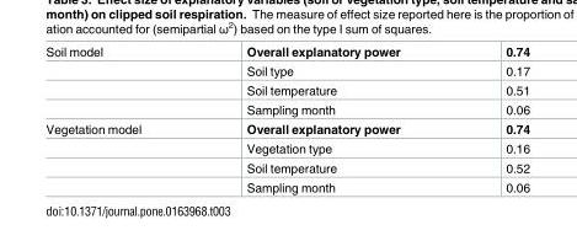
<table><tbody><tr><td rowspan="4">Soil model</td><td>Overall explanatory power</td><td>0.74</td></tr><tr><td>Soil type</td><td>0.17</td></tr><tr><td>Soil temperature</td><td>0.51</td></tr><tr><td>Sampling month</td><td>0.06</td></tr><tr><td rowspan="4">Vegetation model</td><td>Overall explanatory power</td><td>0.74</td></tr><tr><td>Vegetation type</td><td>0.16</td></tr><tr><td>Soil temperature</td><td>0.52</td></tr><tr><td>Sampling month</td><td>0.06</td></tr></tbody></table>